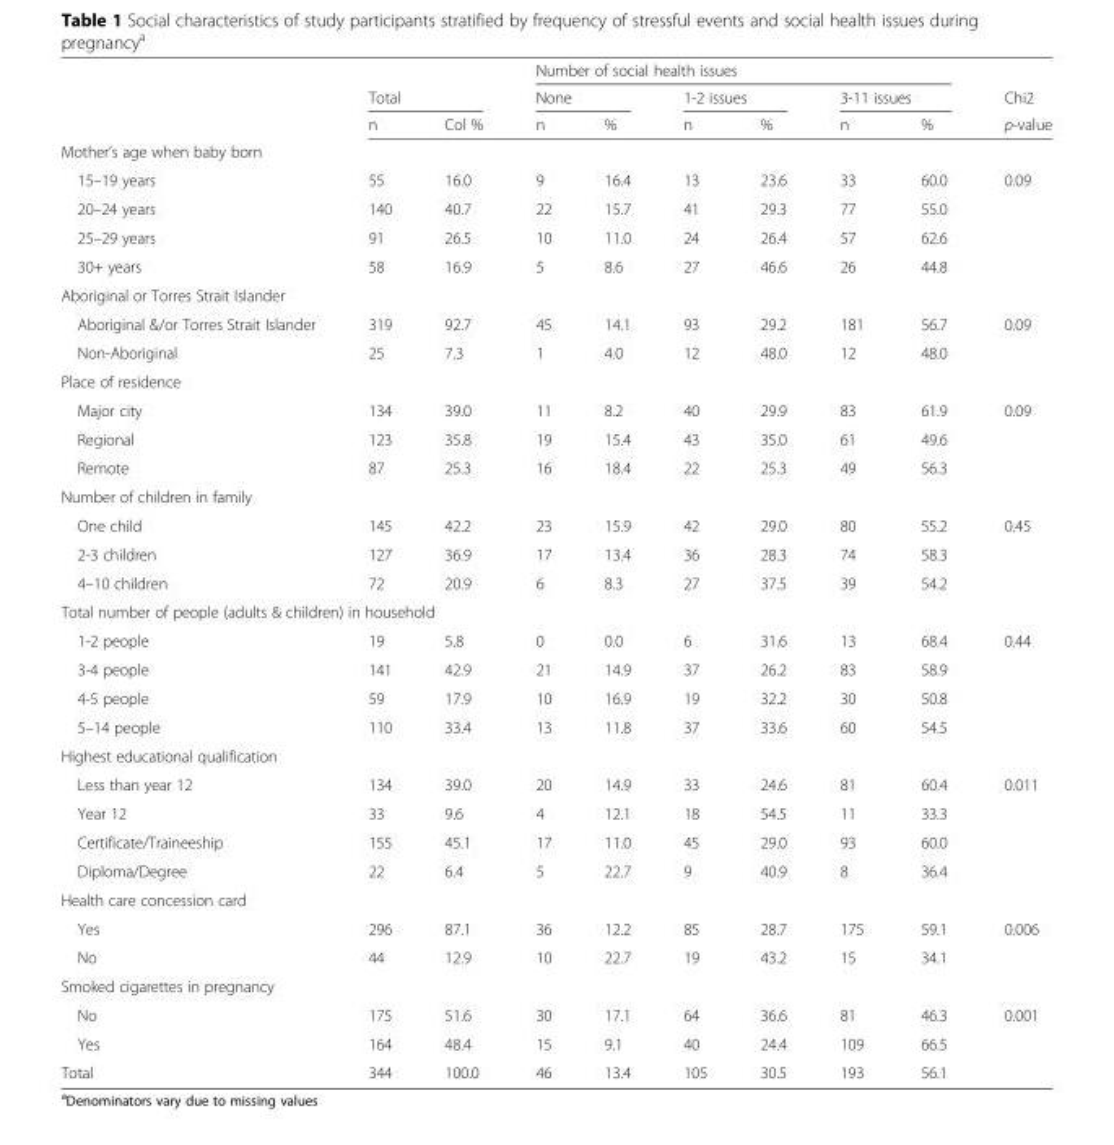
<table><thead><tr><td rowspan="3"></td><td></td><td></td><td colspan="6">Number of social health issues</td><td rowspan="3">Chi2 p-value</td></tr><tr><td colspan="2">Total</td><td colspan="2">None</td><td colspan="2">1-2 issues</td><td colspan="2">3-11 issues</td></tr><tr><td>n</td><td>Col %</td><td>n</td><td>%</td><td>n</td><td>%</td><td>n</td><td>%</td></tr></thead><tbody><tr><td colspan="10">Mother’s age when baby born</td></tr><tr><td>15–19 years</td><td>55</td><td>16.0</td><td>9</td><td>16.4</td><td>13</td><td>23.6</td><td>33</td><td>60.0</td><td>0.09</td></tr><tr><td>20–24 years</td><td>140</td><td>40.7</td><td>22</td><td>15.7</td><td>41</td><td>29.3</td><td>77</td><td>55.0</td><td></td></tr><tr><td>25–29 years</td><td>91</td><td>26.5</td><td>10</td><td>11.0</td><td>24</td><td>26.4</td><td>57</td><td>62.6</td><td></td></tr><tr><td>30+ years</td><td>58</td><td>16.9</td><td>5</td><td>8.6</td><td>27</td><td>46.6</td><td>26</td><td>44.8</td><td></td></tr><tr><td colspan="10">Aboriginal or Torres Strait Islander</td></tr><tr><td>Aboriginal &amp;/or Torres Strait Islander</td><td>319</td><td>92.7</td><td>45</td><td>14.1</td><td>93</td><td>29.2</td><td>181</td><td>56.7</td><td>0.09</td></tr><tr><td>Non-Aboriginal</td><td>25</td><td>7.3</td><td>1</td><td>4.0</td><td>12</td><td>48.0</td><td>12</td><td>48.0</td><td></td></tr><tr><td colspan="10">Place of residence</td></tr><tr><td>Major city</td><td>134</td><td>39.0</td><td>11</td><td>8.2</td><td>40</td><td>29.9</td><td>83</td><td>61.9</td><td>0.09</td></tr><tr><td>Regional</td><td>123</td><td>35.8</td><td>19</td><td>15.4</td><td>43</td><td>35.0</td><td>61</td><td>49.6</td><td></td></tr><tr><td>Remote</td><td>87</td><td>25.3</td><td>16</td><td>18.4</td><td>22</td><td>25.3</td><td>49</td><td>56.3</td><td></td></tr><tr><td colspan="10">Number of children in family</td></tr><tr><td>One child</td><td>145</td><td>42.2</td><td>23</td><td>15.9</td><td>42</td><td>29.0</td><td>80</td><td>55.2</td><td>0.45</td></tr><tr><td>2-3 children</td><td>127</td><td>36.9</td><td>17</td><td>13.4</td><td>36</td><td>28.3</td><td>74</td><td>58.3</td><td></td></tr><tr><td>4–10 children</td><td>72</td><td>20.9</td><td>6</td><td>8.3</td><td>27</td><td>37.5</td><td>39</td><td>54.2</td><td></td></tr><tr><td colspan="10">Total number of people (adults &amp; children) in household</td></tr><tr><td>1-2 people</td><td>19</td><td>5.8</td><td>0</td><td>0.0</td><td>6</td><td>31.6</td><td>13</td><td>68.4</td><td>0.44</td></tr><tr><td>3-4 people</td><td>141</td><td>42.9</td><td>21</td><td>14.9</td><td>37</td><td>26.2</td><td>83</td><td>58.9</td><td></td></tr><tr><td>4-5 people</td><td>59</td><td>17.9</td><td>10</td><td>16.9</td><td>19</td><td>32.2</td><td>30</td><td>50.8</td><td></td></tr><tr><td>5–14 people</td><td>110</td><td>33.4</td><td>13</td><td>11.8</td><td>37</td><td>33.6</td><td>60</td><td>54.5</td><td></td></tr><tr><td colspan="10">Highest educational qualification</td></tr><tr><td>Less than year 12</td><td>134</td><td>39.0</td><td>20</td><td>14.9</td><td>33</td><td>24.6</td><td>81</td><td>60.4</td><td>0.011</td></tr><tr><td>Year 12</td><td>33</td><td>9.6</td><td>4</td><td>12.1</td><td>18</td><td>54.5</td><td>11</td><td>33.3</td><td></td></tr><tr><td>Certificate/Traineeship</td><td>155</td><td>45.1</td><td>17</td><td>11.0</td><td>45</td><td>29.0</td><td>93</td><td>60.0</td><td></td></tr><tr><td>Diploma/Degree</td><td>22</td><td>6.4</td><td>5</td><td>22.7</td><td>9</td><td>40.9</td><td>8</td><td>36.4</td><td></td></tr><tr><td colspan="10">Health care concession card</td></tr><tr><td>Yes</td><td>296</td><td>87.1</td><td>36</td><td>12.2</td><td>85</td><td>28.7</td><td>175</td><td>59.1</td><td>0.006</td></tr><tr><td>No</td><td>44</td><td>12.9</td><td>10</td><td>22.7</td><td>19</td><td>43.2</td><td>15</td><td>34.1</td><td></td></tr><tr><td colspan="10">Smoked cigarettes in pregnancy</td></tr><tr><td>No</td><td>175</td><td>51.6</td><td>30</td><td>17.1</td><td>64</td><td>36.6</td><td>81</td><td>46.3</td><td>0.001</td></tr><tr><td>Yes</td><td>164</td><td>48.4</td><td>15</td><td>9.1</td><td>40</td><td>24.4</td><td>109</td><td>66.5</td><td></td></tr><tr><td>Total</td><td>344</td><td>100.0</td><td>46</td><td>13.4</td><td>105</td><td>30.5</td><td>193</td><td>56.1</td><td></td></tr></tbody></table>